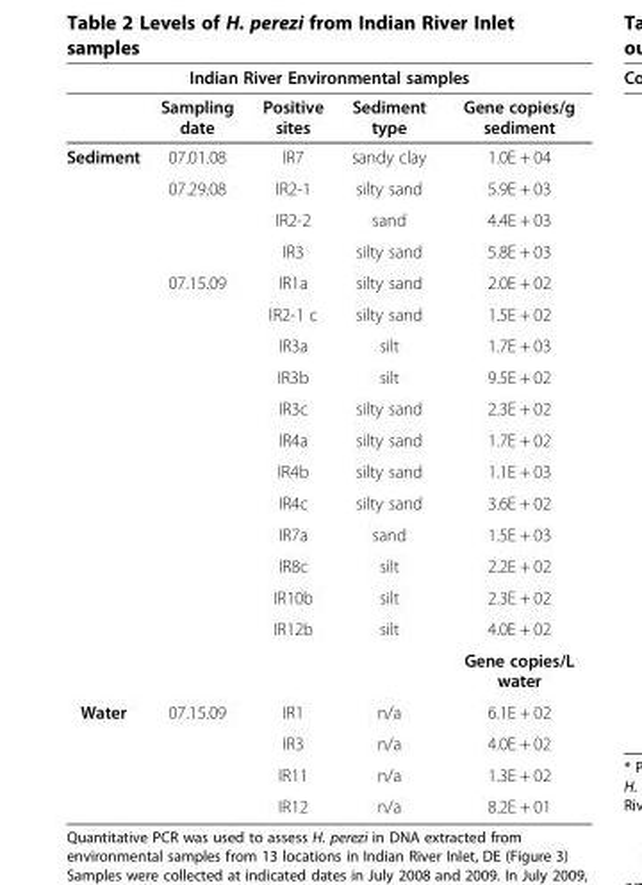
<table><thead><tr><td colspan="5">Indian River Environmental samples</td></tr><tr><td></td><td>Sampling date</td><td>Positive sites</td><td>Sediment type</td><td>Gene copies/g sediment</td></tr></thead><tbody><tr><td rowspan="17">Sediment</td><td>07.01.08</td><td>IR7</td><td>sandy clay</td><td>1.0E + 04</td></tr><tr><td rowspan="3">07.29.08</td><td>IR2-1</td><td>silty sand</td><td>5.9E + 03</td></tr><tr><td>IR2-2</td><td>sand</td><td>4.4E + 03</td></tr><tr><td>IR3</td><td>silty sand</td><td>5.8E + 03</td></tr><tr><td rowspan="12">07.15.09</td><td>IR1a</td><td>silty sand</td><td>2.0E + 02</td></tr><tr><td>IR2-1 c</td><td>silty sand</td><td>1.5E + 02</td></tr><tr><td>IR3a</td><td>silt</td><td>1.7E + 03</td></tr><tr><td>IR3b</td><td>silt</td><td>9.5E + 02</td></tr><tr><td>IR3c</td><td>silty sand</td><td>2.3E + 02</td></tr><tr><td>IR4a</td><td>silty sand</td><td>1.7E + 02</td></tr><tr><td>IR4b</td><td>silty sand</td><td>1.1E + 03</td></tr><tr><td>IR4c</td><td>silty sand</td><td>3.6E + 02</td></tr><tr><td>IR7a</td><td>sand</td><td>1.5E + 03</td></tr><tr><td>IR8c</td><td>silt</td><td>2.2E + 02</td></tr><tr><td>IR10b</td><td>silt</td><td>2.3E + 02</td></tr><tr><td>IR12b</td><td>silt</td><td>4.0E + 02</td></tr><tr><td></td><td></td><td></td><td>Gene copies/L water</td></tr><tr><td rowspan="4">Water</td><td rowspan="4">07.15.09</td><td>IR1</td><td>n/a</td><td>6.1E + 02</td></tr><tr><td>IR3</td><td>n/a</td><td>4.0E + 02</td></tr><tr><td>IR11</td><td>n/a</td><td>1.3E + 02</td></tr><tr><td>IR12</td><td>n/a</td><td>8.2E + 01</td></tr></tbody></table>